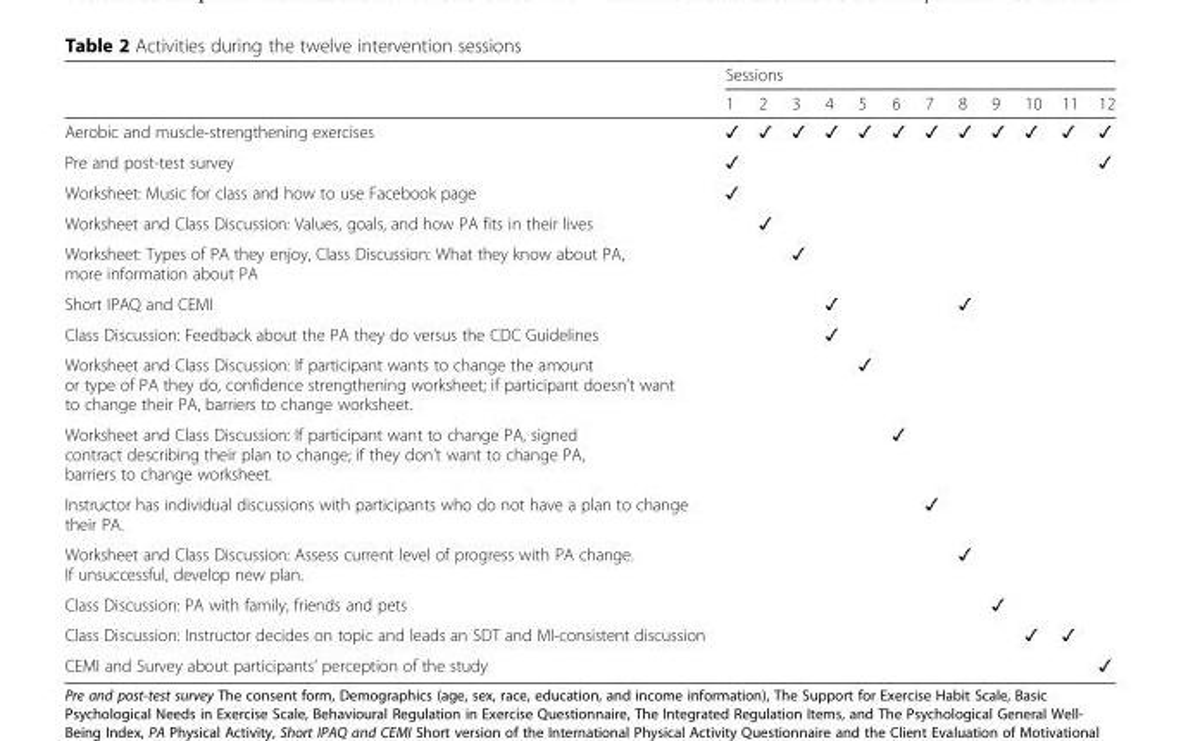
<table><thead><tr><td rowspan="2"></td><td colspan="12">Sessions</td></tr><tr><td>1</td><td>2</td><td>3</td><td>4</td><td>5</td><td>6</td><td>7</td><td>8</td><td>9</td><td>10</td><td>11</td><td>12</td></tr></thead><tbody><tr><td>Aerobic and muscle-strengthening exercises</td><td>✓</td><td>✓</td><td>✓</td><td>✓</td><td>✓</td><td>✓</td><td>✓</td><td>✓</td><td>✓</td><td>✓</td><td>✓</td><td>✓</td></tr><tr><td>Pre and post-test survey</td><td>✓</td><td></td><td></td><td></td><td></td><td></td><td></td><td></td><td></td><td></td><td></td><td>✓</td></tr><tr><td>Worksheet: Music for class and how to use Facebook page</td><td>✓</td><td></td><td></td><td></td><td></td><td></td><td></td><td></td><td></td><td></td><td></td><td></td></tr><tr><td>Worksheet and Class Discussion: Values, goals, and how PA fits in their lives</td><td></td><td>✓</td><td></td><td></td><td></td><td></td><td></td><td></td><td></td><td></td><td></td><td></td></tr><tr><td>Worksheet: Types of PA they enjoy, Class Discussion: What they know about PA, more information about PA</td><td></td><td></td><td>✓</td><td></td><td></td><td></td><td></td><td></td><td></td><td></td><td></td><td></td></tr><tr><td>Short IPAQ and CEMI</td><td></td><td></td><td></td><td>✓</td><td></td><td></td><td></td><td>✓</td><td></td><td></td><td></td><td></td></tr><tr><td>Class Discussion: Feedback about the PA they do versus the CDC Guidelines</td><td></td><td></td><td></td><td>✓</td><td></td><td></td><td></td><td></td><td></td><td></td><td></td><td></td></tr><tr><td>Worksheet and Class Discussion: If participant wants to change the amount or type of PA they do, confidence strengthening worksheet; if participant doesn’t want to change their PA, barriers to change worksheet.</td><td></td><td></td><td></td><td></td><td>✓</td><td></td><td></td><td></td><td></td><td></td><td></td><td></td></tr><tr><td>Worksheet and Class Discussion: If participant want to change PA, signed contract describing their plan to change; if they don’t want to change PA, barriers to change worksheet.</td><td></td><td></td><td></td><td></td><td></td><td>✓</td><td></td><td></td><td></td><td></td><td></td><td></td></tr><tr><td>Instructor has individual discussions with participants who do not have a plan to change their PA.</td><td></td><td></td><td></td><td></td><td></td><td></td><td>✓</td><td></td><td></td><td></td><td></td><td></td></tr><tr><td>Worksheet and Class Discussion: Assess current level of progress with PA change. If unsuccessful, develop new plan.</td><td></td><td></td><td></td><td></td><td></td><td></td><td></td><td>✓</td><td></td><td></td><td></td><td></td></tr><tr><td>Class Discussion: PA with family, friends and pets</td><td></td><td></td><td></td><td></td><td></td><td></td><td></td><td></td><td>✓</td><td></td><td></td><td></td></tr><tr><td>Class Discussion: Instructor decides on topic and leads an SDT and MI-consistent discussion</td><td></td><td></td><td></td><td></td><td></td><td></td><td></td><td></td><td></td><td>✓</td><td>✓</td><td></td></tr><tr><td>CEMI and Survey about participants’ perception of the study</td><td></td><td></td><td></td><td></td><td></td><td></td><td></td><td></td><td></td><td></td><td></td><td>✓</td></tr></tbody></table>